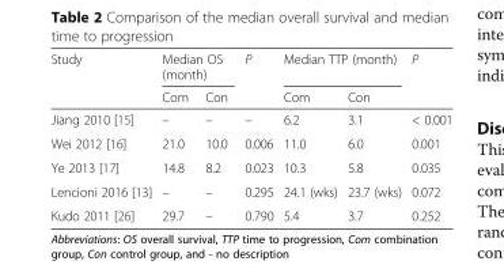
<table><thead><tr><td rowspan="2">Study</td><td colspan="2">Median OS (month)</td><td rowspan="2">P</td><td colspan="2">Median TTP (month)</td><td rowspan="2">P</td></tr><tr><td>Com</td><td>Con</td><td>Com</td><td>Con</td></tr></thead><tbody><tr><td>Jiang 2010 [15]</td><td>–</td><td>–</td><td>–</td><td>6.2</td><td>3.1</td><td>&lt; 0.001</td></tr><tr><td>Wei 2012 [16]</td><td>21.0</td><td>10.0</td><td>0.006</td><td>11.0</td><td>6.0</td><td>0.001</td></tr><tr><td>Ye 2013 [17]</td><td>14.8</td><td>8.2</td><td>0.023</td><td>10.3</td><td>5.8</td><td>0.035</td></tr><tr><td>Lencioni 2016 [13]</td><td>–</td><td>–</td><td>0.295</td><td>24.1 (wks)</td><td>23.7 (wks)</td><td>0.072</td></tr><tr><td>Kudo 2011 [26]</td><td>29.7</td><td>–</td><td>0.790</td><td>5.4</td><td>3.7</td><td>0.252</td></tr></tbody></table>